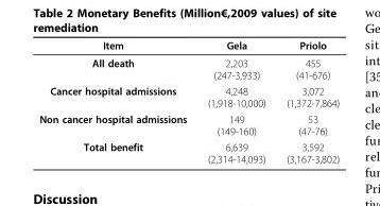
<table><thead><tr><td>Item</td><td>Gela</td><td>Priolo</td></tr></thead><tbody><tr><td>All death</td><td>2,203 (247-3,933)</td><td>455 (41-676)</td></tr><tr><td>Cancer hospital admissions</td><td>4,248 (1,918-10,000)</td><td>3,072 (1,372-7,864)</td></tr><tr><td>Non cancer hospital admissions</td><td>149 (149-160)</td><td>53 (47-76)</td></tr><tr><td>Total benefit</td><td>6,639 (2,314-14,093)</td><td>3,592 (3,167-3,802)</td></tr></tbody></table>